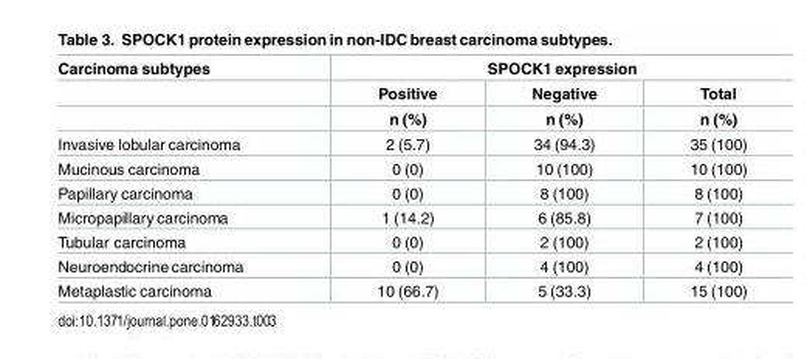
<table><thead><tr><td rowspan="3">Carcinoma subtypes</td><td colspan="3">SPOCK1 expression</td></tr><tr><td rowspan="2">Positive n (%)</td><td rowspan="2">Negative n (%)</td><td rowspan="2">Total n (%)</td></tr><tr></tr></thead><tbody><tr><td>Invasive lobular carcinoma</td><td>2 (5.7)</td><td>34 (94.3)</td><td>35 (100)</td></tr><tr><td>Mucinous carcinoma</td><td>0 (0)</td><td>10 (100)</td><td>10 (100)</td></tr><tr><td>Papillary carcinoma</td><td>0 (0)</td><td>8 (100)</td><td>8 (100)</td></tr><tr><td>Micropapillary carcinoma</td><td>1 (14.2)</td><td>6 (85.8)</td><td>7 (100)</td></tr><tr><td>Tubular carcinoma</td><td>0 (0)</td><td>2 (100)</td><td>2 (100)</td></tr><tr><td>Neuroendocrine carcinoma</td><td>0 (0)</td><td>4 (100)</td><td>4 (100)</td></tr><tr><td>Metaplastic carcinoma</td><td>10 (66.7)</td><td>5 (33.3)</td><td>15 (100)</td></tr></tbody></table>